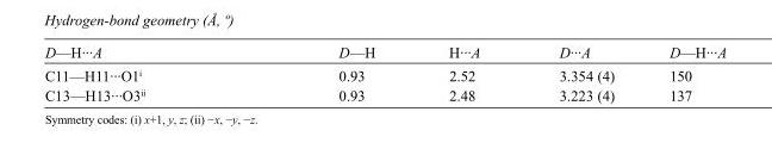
<table><tbody><tr><td>D—H···A</td><td>D—H</td><td>H···A</td><td>D···A</td><td>D—H···A</td></tr><tr><td>C11—H11···O1<sup>i</sup></td><td>0.93</td><td>2.52</td><td>3.354 (4)</td><td>150</td></tr><tr><td>C13—H13···O3<sup>ii</sup></td><td>0.93</td><td>2.48</td><td>3.223 (4)</td><td>137</td></tr></tbody></table>